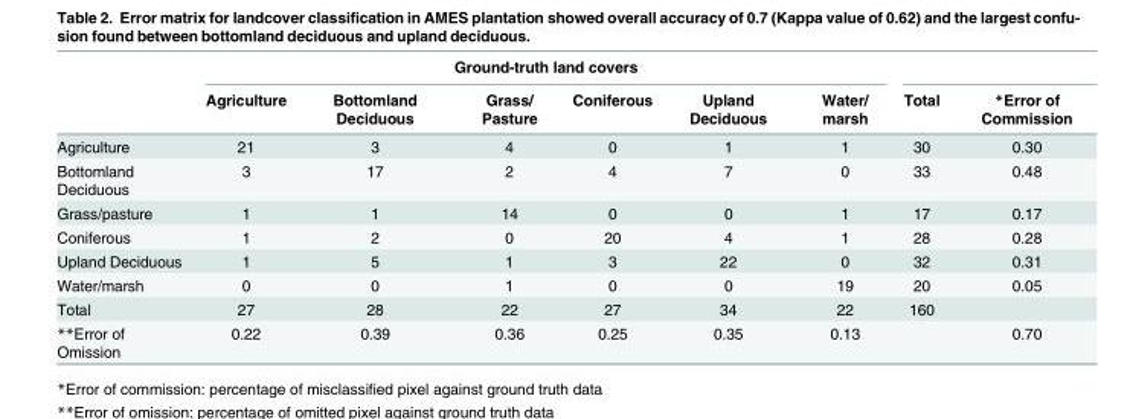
<table><thead><tr><td rowspan="2"></td><td colspan="6">Ground-truth land covers</td><td rowspan="2">Total</td><td rowspan="2">*Error of Commission</td></tr><tr><td>Agriculture</td><td>Bottomland Deciduous</td><td>Grass/ Pasture</td><td>Coniferous</td><td>Upland Deciduous</td><td>Water/ marsh</td></tr></thead><tbody><tr><td>Agriculture</td><td>21</td><td>3</td><td>4</td><td>0</td><td>1</td><td>1</td><td>30</td><td>0.30</td></tr><tr><td>Bottomland Deciduous</td><td>3</td><td>17</td><td>2</td><td>4</td><td>7</td><td>0</td><td>33</td><td>0.48</td></tr><tr><td>Grass/pasture</td><td>1</td><td>1</td><td>14</td><td>0</td><td>0</td><td>1</td><td>17</td><td>0.17</td></tr><tr><td>Coniferous</td><td>1</td><td>2</td><td>0</td><td>20</td><td>4</td><td>1</td><td>28</td><td>0.28</td></tr><tr><td>Upland Deciduous</td><td>1</td><td>5</td><td>1</td><td>3</td><td>22</td><td>0</td><td>32</td><td>0.31</td></tr><tr><td>Water/marsh</td><td>0</td><td>0</td><td>1</td><td>0</td><td>0</td><td>19</td><td>20</td><td>0.05</td></tr><tr><td>Total</td><td>27</td><td>28</td><td>22</td><td>27</td><td>34</td><td>22</td><td>160</td><td></td></tr><tr><td>**Error of Omission</td><td>0.22</td><td>0.39</td><td>0.36</td><td>0.25</td><td>0.35</td><td>0.13</td><td></td><td>0.70</td></tr></tbody></table>